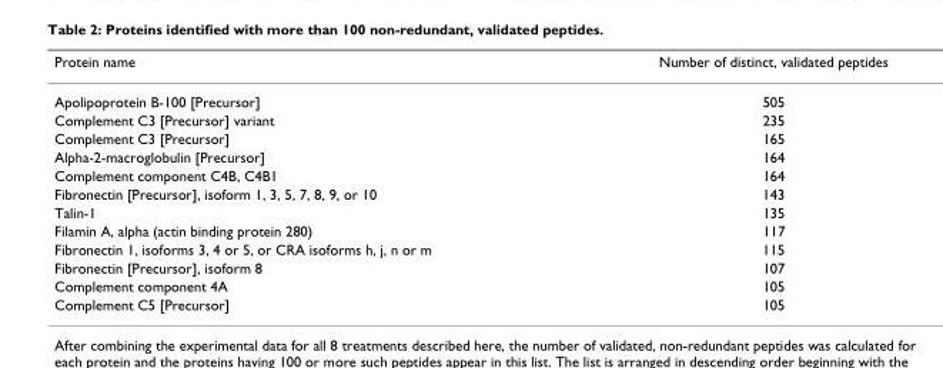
<table><thead><tr><td>Protein name</td><td>Number of distinct, validated peptides</td></tr></thead><tbody><tr><td>Apolipoprotein B-100 [Precursor]</td><td>505</td></tr><tr><td>Complement C3 [Precursor] variant</td><td>235</td></tr><tr><td>Complement C3 [Precursor]</td><td>165</td></tr><tr><td>Alpha-2-macroglobulin [Precursor]</td><td>164</td></tr><tr><td>Complement component C4B, C4B1</td><td>164</td></tr><tr><td>Fibronectin [Precursor], isoform 1, 3, 5, 7, 8, 9, or 10</td><td>143</td></tr><tr><td>Talin-1</td><td>135</td></tr><tr><td>Filamin A, alpha (actin binding protein 280)</td><td>117</td></tr><tr><td>Fibronectin 1, isoforms 3, 4 or 5, or CRA isoforms h, j, n or m</td><td>115</td></tr><tr><td>Fibronectin [Precursor], isoform 8</td><td>107</td></tr><tr><td>Complement component 4A</td><td>105</td></tr><tr><td>Complement C5 [Precursor]</td><td>105</td></tr></tbody></table>